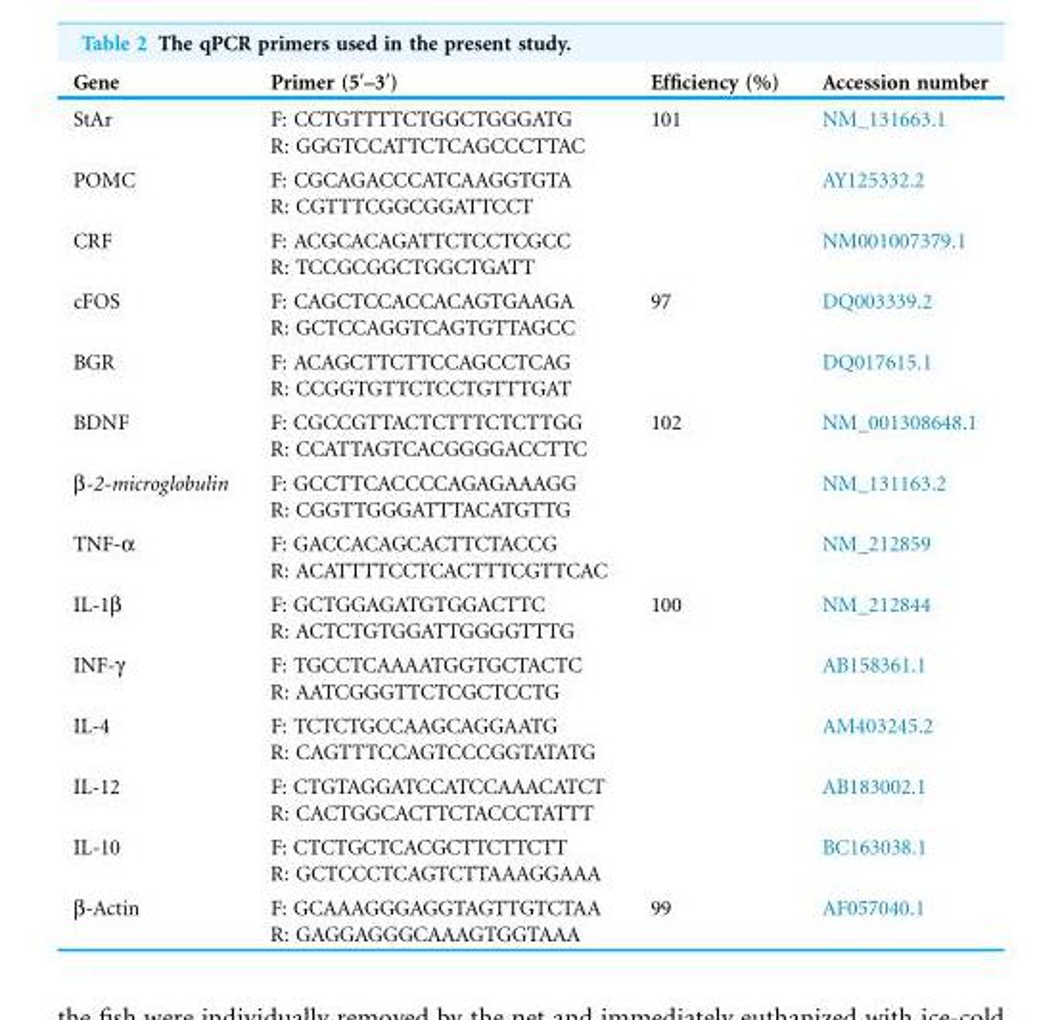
<table><thead><tr><td>Gene</td><td>Primer (5′–3′)</td><td>Efficiency (%)</td><td>Accession number</td></tr></thead><tbody><tr><td>StAr</td><td>F: CCTGTTTTCTGGCTGGGATG R: GGGTCCATTCTCAGCCCTTAC</td><td>101</td><td>NM_131663.1</td></tr><tr><td>POMC</td><td>F: CGCAGACCCATCAAGGTGTA R: CGTTTCGGCGGATTCCT</td><td></td><td>AY125332.2</td></tr><tr><td>CRF</td><td>F: ACGCACAGATTCTCCTCGCC R: TCCGCGGCTGGCTGATT</td><td></td><td>NM001007379.1</td></tr><tr><td>cFOS</td><td>F: CAGCTCCACCACAGTGAAGA R: GCTCCAGGTCAGTGTTAGCC</td><td>97</td><td>DQ003339.2</td></tr><tr><td>BGR</td><td>F: ACAGCTTCTTCCAGCCTCAG R: CCGGTGTTCTCCTGTTTGAT</td><td></td><td>DQ017615.1</td></tr><tr><td>BDNF</td><td>F: CGCCGTTACTCTTTCTCTTGG R: CCATTAGTCACGGGGACCTTC</td><td>102</td><td>NM_001308648.1</td></tr><tr><td>β-2-microglobulin</td><td>F: GCCTTCACCCCAGAGAAAGG R: CGGTTGGGATTTACATGTTG</td><td></td><td>NM_131163.2</td></tr><tr><td>TNF-α</td><td>F: GACCACAGCACTTCTACCG R: ACATTTTCCTCACTTTCGTTCAC</td><td></td><td>NM_212859</td></tr><tr><td>IL-1β</td><td>F: GCTGGAGATGTGGACTTC R: ACTCTGTGGATTGGGGTTTG</td><td>100</td><td>NM_212844</td></tr><tr><td>INF-γ</td><td>F: TGCCTCAAAATGGTGCTACTC R: AATCGGGTTCTCGCTCCTG</td><td></td><td>AB158361.1</td></tr><tr><td>IL-4</td><td>F: TCTCTGCCAAGCAGGAATG R: CAGTTTCCAGTCCCGGTATATG</td><td></td><td>AM403245.2</td></tr><tr><td>IL-12</td><td>F: CTGTAGGATCCATCCAAACATCT R: CACTGGCACTTCTACCCTATTT</td><td></td><td>AB183002.1</td></tr><tr><td>IL-10</td><td>F: CTCTGCTCACGCTTCTTCTT R: GCTCCCTCAGTCTTAAAGGAAA</td><td></td><td>BC163038.1</td></tr><tr><td>β-Actin</td><td>F: GCAAAGGGAGGTAGTTGTCTAA R: GAGGAGGGCAAAGTGGTAAA</td><td>99</td><td>AF057040.1</td></tr></tbody></table>